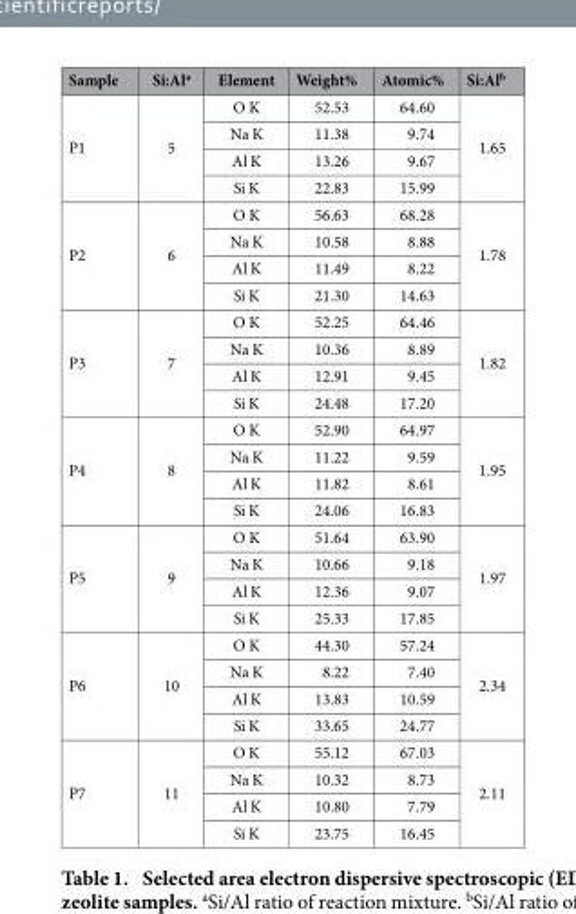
<table><thead><tr><td>Sample</td><td>Si:Al<sup>a</sup></td><td>Element</td><td>Weight%</td><td>Atomic%</td><td>Si:Al<sup>b</sup></td></tr></thead><tbody><tr><td rowspan="4">P1</td><td rowspan="4">5</td><td>O K</td><td>52.53</td><td>64.60</td><td rowspan="4">1.65</td></tr><tr><td>Na K</td><td>11.38</td><td>9.74</td></tr><tr><td>Al K</td><td>13.26</td><td>9.67</td></tr><tr><td>Si K</td><td>22.83</td><td>15.99</td></tr><tr><td rowspan="4">P2</td><td rowspan="4">6</td><td>O K</td><td>56.63</td><td>68.28</td><td rowspan="4">1.78</td></tr><tr><td>Na K</td><td>10.58</td><td>8.88</td></tr><tr><td>Al K</td><td>11.49</td><td>8.22</td></tr><tr><td>Si K</td><td>21.30</td><td>14.63</td></tr><tr><td rowspan="4">P3</td><td rowspan="4">7</td><td>O K</td><td>52.25</td><td>64.46</td><td rowspan="4">1.82</td></tr><tr><td>Na K</td><td>10.36</td><td>8.89</td></tr><tr><td>Al K</td><td>12.91</td><td>9.45</td></tr><tr><td>Si K</td><td>24.48</td><td>17.20</td></tr><tr><td rowspan="4">P4</td><td rowspan="4">8</td><td>O K</td><td>52.90</td><td>64.97</td><td rowspan="4">1.95</td></tr><tr><td>Na K</td><td>11.22</td><td>9.59</td></tr><tr><td>Al K</td><td>11.82</td><td>8.61</td></tr><tr><td>Si K</td><td>24.06</td><td>16.83</td></tr><tr><td rowspan="4">P5</td><td rowspan="4">9</td><td>O K</td><td>51.64</td><td>63.90</td><td rowspan="4">1.97</td></tr><tr><td>Na K</td><td>10.66</td><td>9.18</td></tr><tr><td>Al K</td><td>12.36</td><td>9.07</td></tr><tr><td>Si K</td><td>25.33</td><td>17.85</td></tr><tr><td rowspan="4">P6</td><td rowspan="4">10</td><td>O K</td><td>44.30</td><td>57.24</td><td rowspan="4">2.34</td></tr><tr><td>Na K</td><td>8.22</td><td>7.40</td></tr><tr><td>Al K</td><td>13.83</td><td>10.59</td></tr><tr><td>Si K</td><td>33.65</td><td>24.77</td></tr><tr><td rowspan="4">P7</td><td rowspan="4">11</td><td>O K</td><td>55.12</td><td>67.03</td><td rowspan="4">2.11</td></tr><tr><td>Na K</td><td>10.32</td><td>8.73</td></tr><tr><td>Al K</td><td>10.80</td><td>7.79</td></tr><tr><td>Si K</td><td>23.75</td><td>16.45</td></tr></tbody></table>